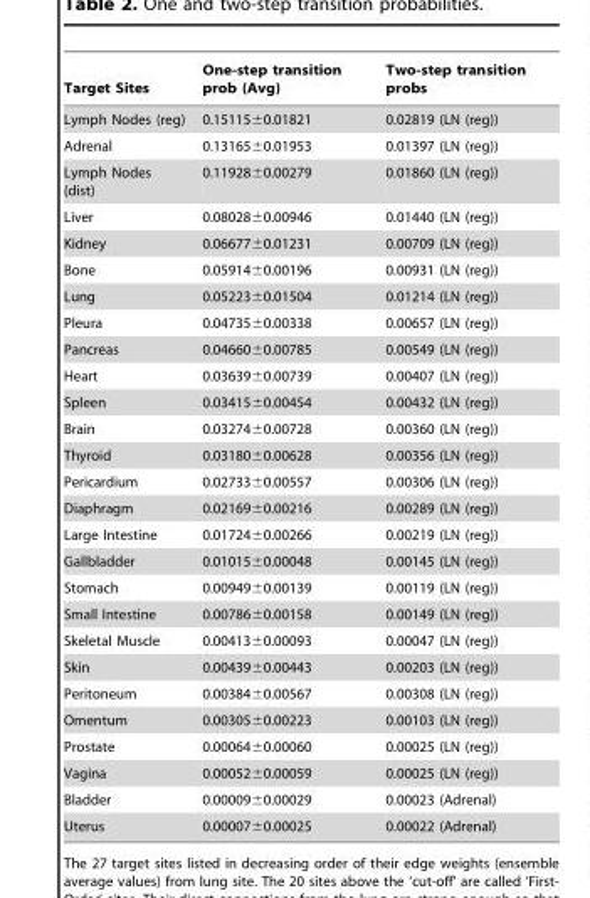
<table><thead><tr><td>Target Sites</td><td>One-step transition prob (Avg)</td><td>Two-step transition probs</td></tr></thead><tbody><tr><td>Lymph Nodes (reg)</td><td>0.15115±0.01821</td><td>0.02819 (LN (reg))</td></tr><tr><td>Adrenal</td><td>0.13165±0.01953</td><td>0.01397 (LN (reg))</td></tr><tr><td>Lymph Nodes (dist)</td><td>0.11928±0.00279</td><td>0.01860 (LN (reg))</td></tr><tr><td>Liver</td><td>0.08028±0.00946</td><td>0.01440 (LN (reg))</td></tr><tr><td>Kidney</td><td>0.06677±0.01231</td><td>0.00709 (LN (reg))</td></tr><tr><td>Bone</td><td>0.05914±0.00196</td><td>0.00931 (LN (reg))</td></tr><tr><td>Lung</td><td>0.05223±0.01504</td><td>0.01214 (LN (reg))</td></tr><tr><td>Pleura</td><td>0.04735±0.00338</td><td>0.00657 (LN (reg))</td></tr><tr><td>Pancreas</td><td>0.04660±0.00785</td><td>0.00549 (LN (reg))</td></tr><tr><td>Heart</td><td>0.03639±0.00739</td><td>0.00407 (LN (reg))</td></tr><tr><td>Spleen</td><td>0.03415±0.00454</td><td>0.00432 (LN (reg))</td></tr><tr><td>Brain</td><td>0.03274±0.00728</td><td>0.00360 (LN (reg))</td></tr><tr><td>Thyroid</td><td>0.03180±0.00628</td><td>0.00356 (LN (reg))</td></tr><tr><td>Pericardium</td><td>0.02733±0.00557</td><td>0.00306 (LN (reg))</td></tr><tr><td>Diaphragm</td><td>0.02169±0.00216</td><td>0.00289 (LN (reg))</td></tr><tr><td>Large Intestine</td><td>0.01724±0.00266</td><td>0.00219 (LN (reg))</td></tr><tr><td>Gallbladder</td><td>0.01015±0.00048</td><td>0.00145 (LN (reg))</td></tr><tr><td>Stomach</td><td>0.00949±0.00139</td><td>0.00119 (LN (reg))</td></tr><tr><td>Small Intestine</td><td>0.00786±0.00158</td><td>0.00149 (LN (reg))</td></tr><tr><td>Skeletal Muscle</td><td>0.00413±0.00093</td><td>0.00047 (LN (reg))</td></tr><tr><td>Skin</td><td>0.00439±0.00443</td><td>0.00203 (LN (reg))</td></tr><tr><td>Peritoneum</td><td>0.00384±0.00567</td><td>0.00308 (LN (reg))</td></tr><tr><td>Omentum</td><td>0.00305±0.00223</td><td>0.00103 (LN (reg))</td></tr><tr><td>Prostate</td><td>0.00064±0.00060</td><td>0.00025 (LN (reg))</td></tr><tr><td>Vagina</td><td>0.00052±0.00059</td><td>0.00025 (LN (reg))</td></tr><tr><td>Bladder</td><td>0.00009±0.00029</td><td>0.00023 (Adrenal)</td></tr><tr><td>Uterus</td><td>0.00007±0.00025</td><td>0.00022 (Adrenal)</td></tr></tbody></table>